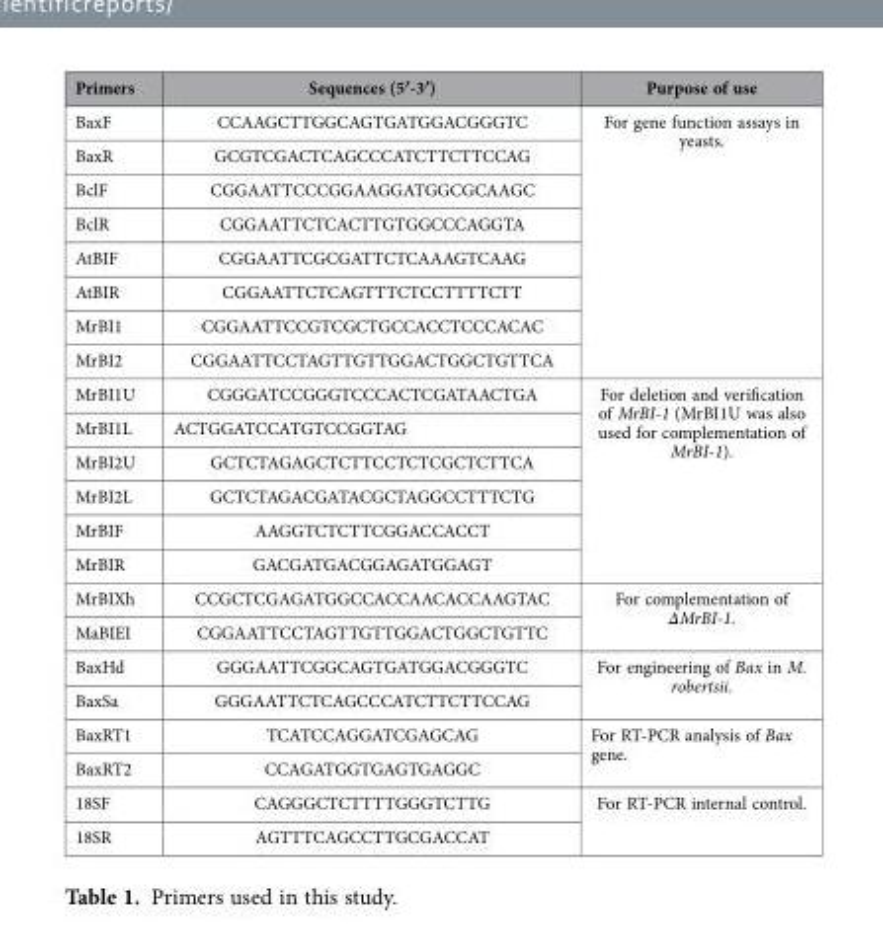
<table><thead><tr><td>Primers</td><td>Sequences (5′-3′)</td><td>Purpose of use</td></tr></thead><tbody><tr><td>BaxF</td><td>CCAAGCTTGGCAGTGATGGACGGGTC</td><td rowspan="8">For gene function assays in yeasts.</td></tr><tr><td>BaxR</td><td>GCGTCGACTCAGCCCATCTTCTTCCAG</td></tr><tr><td>BclF</td><td>CGGAATTCCCGGAAGGATGGCGCAAGC</td></tr><tr><td>BclR</td><td>CGGAATTCTCACTTGTGGCCCAGGTA</td></tr><tr><td>AtBIF</td><td>CGGAATTCGCGATTCTCAAAGTCAAG</td></tr><tr><td>AtBIR</td><td>CGGAATTCTCAGTTTCTCCTTTTCTT</td></tr><tr><td>MrBI1</td><td>CGGAATTCCGTCGCTGCCACCTCCCACAC</td></tr><tr><td>MrBI2</td><td>CGGAATTCCTAGTTGTTGGACTGGCTGTTCA</td></tr><tr><td>MrBI1U</td><td>CGGGATCCGGGTCCCACTCGATAACTGA</td><td rowspan="6">For deletion and verification of MrBI-1 (MrBI1U was also used for complementation of MrBI-1).</td></tr><tr><td>MrBI1L</td><td>ACTGGATCCATGTCCGGTAG</td></tr><tr><td>MrBI2U</td><td>GCTCTAGAGCTCTTCCTCTCGCTCTTCA</td></tr><tr><td>MrBI2L</td><td>GCTCTAGACGATACGCTAGGCCTTTCTG</td></tr><tr><td>MrBIF</td><td>AAGGTCTCTTCGGACCACCT</td></tr><tr><td>MrBIR</td><td>GACGATGACGGAGATGGAGT</td></tr><tr><td>MrBIXh</td><td>CCGCTCGAGATGGCCACCAACACCAAGTAC</td><td rowspan="2">For complementation of ΔMrBI-1.</td></tr><tr><td>MaBIEI</td><td>CGGAATTCCTAGTTGTTGGACTGGCTGTTC</td></tr><tr><td>BaxHd</td><td>GGGAATTCGGCAGTGATGGACGGGTC</td><td rowspan="2">For engineering of Bax in M. robertsii.</td></tr><tr><td>BaxSa</td><td>GGGAATTCTCAGCCCATCTTCTTCCAG</td></tr><tr><td>BaxRT1</td><td>TCATCCAGGATCGAGCAG</td><td rowspan="2">For RT-PCR analysis of Bax gene.</td></tr><tr><td>BaxRT2</td><td>CCAGATGGTGAGTGAGGC</td></tr><tr><td>18SF</td><td>CAGGGCTCTTTTGGGTCTTG</td><td rowspan="2">For RT-PCR internal control.</td></tr><tr><td>18SR</td><td>AGTTTCAGCCTTGCGACCAT</td></tr></tbody></table>